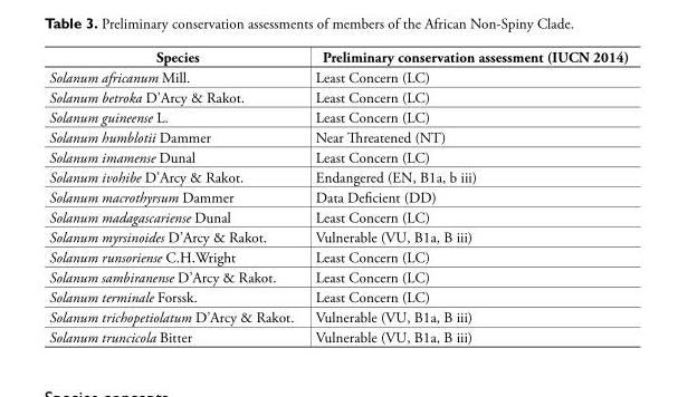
<table><thead><tr><td>Species</td><td>Preliminary conservation assessment (IUCN 2014)</td></tr></thead><tbody><tr><td>Solanum africanum Mill.</td><td>Least Concern (LC)</td></tr><tr><td>Solanum betroka D’Arcy &amp; Rakot.</td><td>Least Concern (LC)</td></tr><tr><td>Solanum guineense L.</td><td>Least Concern (LC)</td></tr><tr><td>Solanum humblotii Dammer</td><td>Near Th reatened (NT)</td></tr><tr><td>Solanum imamense Dunal</td><td>Least Concern (LC)</td></tr><tr><td>Solanum ivohibe D’Arcy &amp; Rakot.</td><td>Endangered (EN, B1a, b iii)</td></tr><tr><td>Solanum macrothyrsum Dammer</td><td>Data Defi cient (DD)</td></tr><tr><td>Solanum madagascariense Dunal</td><td>Least Concern (LC)</td></tr><tr><td>Solanum myrsinoides D’Arcy &amp; Rakot.</td><td>Vulnerable (VU, B1a, B iii)</td></tr><tr><td>Solanum runsoriense C.H.Wright</td><td>Least Concern (LC)</td></tr><tr><td>Solanum sambiranense D’Arcy &amp; Rakot.</td><td>Least Concern (LC)</td></tr><tr><td>Solanum terminale Forssk.</td><td>Least Concern (LC)</td></tr><tr><td>Solanum trichopetiolatum D’Arcy &amp; Rakot.</td><td>Vulnerable (VU, B1a, B iii)</td></tr><tr><td>Solanum truncicola Bitter</td><td>Vulnerable (VU, B1a, B iii)</td></tr></tbody></table>